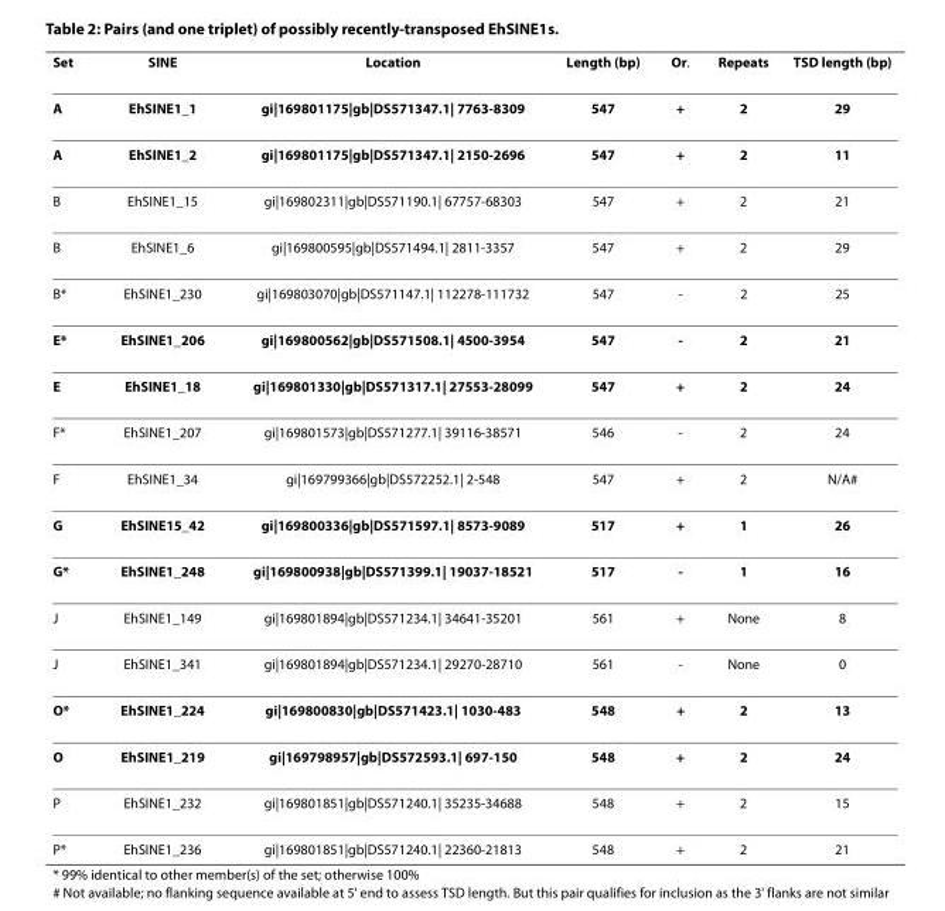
<table><thead><tr><td>Set</td><td>SINE</td><td>Location</td><td>Length (bp)</td><td>Or.</td><td>Repeats</td><td>TSD length (bp)</td></tr></thead><tbody><tr><td>A</td><td>EhSINE1_1</td><td>gi|169801175|gb|DS571347.1| 7763-8309</td><td>547</td><td>+</td><td>2</td><td>29</td></tr><tr><td>A</td><td>EhSINE1_2</td><td>gi|169801175|gb|DS571347.1| 2150-2696</td><td>547</td><td>+</td><td>2</td><td>11</td></tr><tr><td>B</td><td>EhSINE1_15</td><td>gi|169802311|gb|DS571190.1| 67757-68303</td><td>547</td><td>+</td><td>2</td><td>21</td></tr><tr><td>B</td><td>EhSINE1_6</td><td>gi|169800595|gb|DS571494.1| 2811-3357</td><td>547</td><td>+</td><td>2</td><td>29</td></tr><tr><td>B*</td><td>EhSINE1_230</td><td>gi|169803070|gb|DS571147.1| 112278-111732</td><td>547</td><td>-</td><td>2</td><td>25</td></tr><tr><td>E*</td><td>EhSINE1_206</td><td>gi|169800562|gb|DS571508.1| 4500-3954</td><td>547</td><td>-</td><td>2</td><td>21</td></tr><tr><td>E</td><td>EhSINE1_18</td><td>gi|169801330|gb|DS571317.1| 27553-28099</td><td>547</td><td>+</td><td>2</td><td>24</td></tr><tr><td>F*</td><td>EhSINE1_207</td><td>gi|169801573|gb|DS571277.1| 39116-38571</td><td>546</td><td>-</td><td>2</td><td>24</td></tr><tr><td>F</td><td>EhSINE1_34</td><td>gi|169799366|gb|DS572252.1| 2-548</td><td>547</td><td>+</td><td>2</td><td>N/A#</td></tr><tr><td>G</td><td>EhSINE15_42</td><td>gi|169800336|gb|DS571597.1| 8573-9089</td><td>517</td><td>+</td><td>1</td><td>26</td></tr><tr><td>G*</td><td>EhSINE1_248</td><td>gi|169800938|gb|DS571399.1| 19037-18521</td><td>517</td><td>-</td><td>1</td><td>16</td></tr><tr><td>J</td><td>EhSINE1_149</td><td>gi|169801894|gb|DS571234.1| 34641-35201</td><td>561</td><td>+</td><td>None</td><td>8</td></tr><tr><td>J</td><td>EhSINE1_341</td><td>gi|169801894|gb|DS571234.1| 29270-28710</td><td>561</td><td>-</td><td>None</td><td>0</td></tr><tr><td>O*</td><td>EhSINE1_224</td><td>gi|169800830|gb|DS571423.1| 1030-483</td><td>548</td><td>+</td><td>2</td><td>13</td></tr><tr><td>O</td><td>EhSINE1_219</td><td>gi|169798957|gb|DS572593.1| 697-150</td><td>548</td><td>+</td><td>2</td><td>24</td></tr><tr><td>P</td><td>EhSINE1_232</td><td>gi|169801851|gb|DS571240.1| 35235-34688</td><td>548</td><td>+</td><td>2</td><td>15</td></tr><tr><td>P*</td><td>EhSINE1_236</td><td>gi|169801851|gb|DS571240.1| 22360-21813</td><td>548</td><td>+</td><td>2</td><td>21</td></tr></tbody></table>